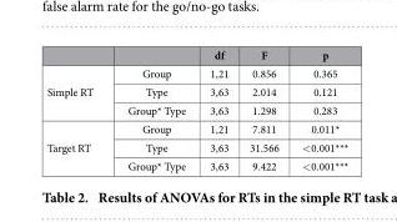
<table><thead><tr><td></td><td></td><td>df</td><td>F</td><td>p</td></tr></thead><tbody><tr><td rowspan="3">Simple RT</td><td>Group</td><td>1,21</td><td>0.856</td><td>0.365</td></tr><tr><td>Type</td><td>3,63</td><td>2.014</td><td>0.121</td></tr><tr><td>Group* Type</td><td>3,63</td><td>1.298</td><td>0.283</td></tr><tr><td rowspan="3">Target RT</td><td>Group</td><td>1,21</td><td>7.811</td><td>0.011*</td></tr><tr><td>Type</td><td>3,63</td><td>31.566</td><td>&lt; 0.001***</td></tr><tr><td>Group* Type</td><td>3,63</td><td>9.422</td><td>&lt; 0.001***</td></tr></tbody></table>